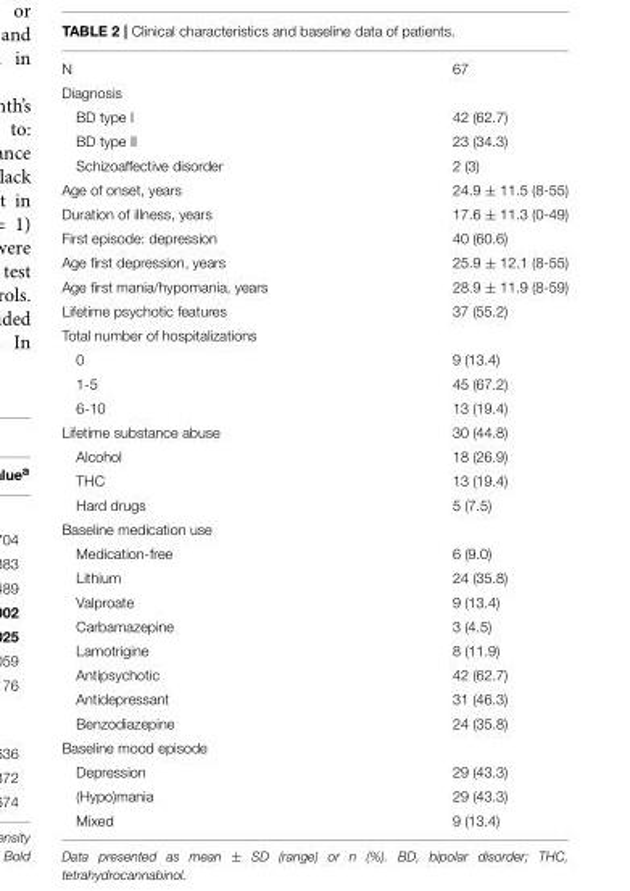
<table><tbody><tr><td>N</td><td>67</td></tr><tr><td colspan="2">Diagnosis</td></tr><tr><td>BD type I</td><td>42 (62.7)</td></tr><tr><td>BD type II</td><td>23 (34.3)</td></tr><tr><td>Schizoaffective disorder</td><td>2 (3)</td></tr><tr><td>Age of onset, years</td><td>24.9 ± 11.5 (8-55)</td></tr><tr><td>Duration of illness, years</td><td>17.6 ± 11.3 (0-49)</td></tr><tr><td>First episode: depression</td><td>40 (60.6)</td></tr><tr><td>Age first depression, years</td><td>25.9 ± 12.1 (8-55)</td></tr><tr><td>Age first mania/hypomania, years</td><td>28.9 ± 11.9 (8-59)</td></tr><tr><td>Lifetime psychotic features</td><td>37 (55.2)</td></tr><tr><td colspan="2">Total number of hospitalizations</td></tr><tr><td>0</td><td>9 (13.4)</td></tr><tr><td>1-5</td><td>45 (67.2)</td></tr><tr><td>6-10</td><td>13 (19.4)</td></tr><tr><td>Lifetime substance abuse</td><td>30 (44.8)</td></tr><tr><td>Alcohol</td><td>18 (26.9)</td></tr><tr><td>THC</td><td>13 (19.4)</td></tr><tr><td>Hard drugs</td><td>5 (7.5)</td></tr><tr><td colspan="2">Baseline medication use</td></tr><tr><td>Medication-free</td><td>6 (9.0)</td></tr><tr><td>Lithium</td><td>24 (35.8)</td></tr><tr><td>Valproate</td><td>9 (13.4)</td></tr><tr><td>Carbamazepine</td><td>3 (4.5)</td></tr><tr><td>Lamotrigine</td><td>8 (11.9)</td></tr><tr><td>Antipsychotic</td><td>42 (62.7)</td></tr><tr><td>Antidepressant</td><td>31 (46.3)</td></tr><tr><td>Benzodiazepine</td><td>24 (35.8)</td></tr><tr><td colspan="2">Baseline mood episode</td></tr><tr><td>Depression</td><td>29 (43.3)</td></tr><tr><td>(Hypo)mania</td><td>29 (43.3)</td></tr><tr><td>Mixed</td><td>9 (13.4)</td></tr></tbody></table>